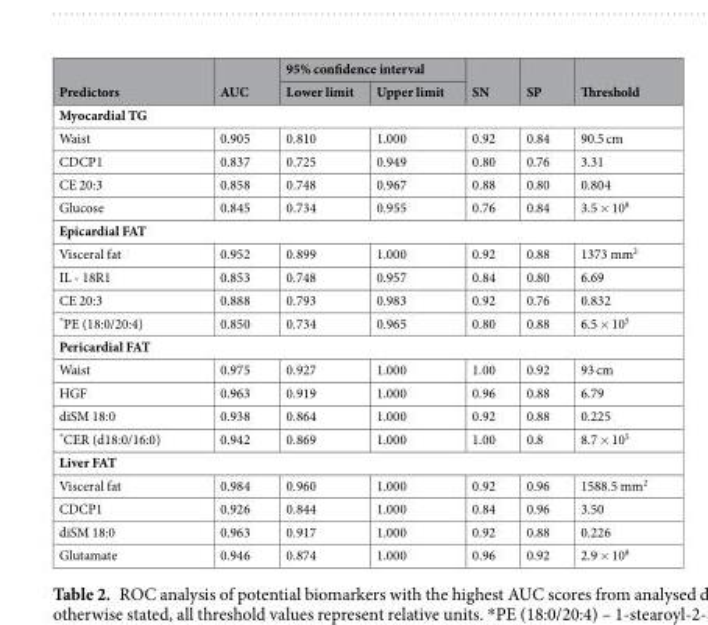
<table><thead><tr><td rowspan="2">Predictors</td><td rowspan="2">AUC</td><td colspan="2">95% confidence interval</td><td rowspan="2">SN</td><td rowspan="2">SP</td><td rowspan="2">Threshold</td></tr><tr><td>Lower limit</td><td>Upper limit</td></tr></thead><tbody><tr><td colspan="7">Myocardial TG</td></tr><tr><td>Waist</td><td>0.905</td><td>0.810</td><td>1.000</td><td>0.92</td><td>0.84</td><td>90.5 cm</td></tr><tr><td>CDCP1</td><td>0.837</td><td>0.725</td><td>0.949</td><td>0.80</td><td>0.76</td><td>3.31</td></tr><tr><td>CE 20:3</td><td>0.858</td><td>0.748</td><td>0.967</td><td>0.88</td><td>0.80</td><td>0.804</td></tr><tr><td>Glucose</td><td>0.845</td><td>0.734</td><td>0.955</td><td>0.76</td><td>0.84</td><td>3.5 × 10<sup>8</sup></td></tr><tr><td colspan="7">Epicardial FAT</td></tr><tr><td>Visceral fat</td><td>0.952</td><td>0.899</td><td>1.000</td><td>0.92</td><td>0.88</td><td>1373 mm<sup>2</sup></td></tr><tr><td>IL - 18R1</td><td>0.853</td><td>0.748</td><td>0.957</td><td>0.84</td><td>0.80</td><td>6.69</td></tr><tr><td>CE 20:3</td><td>0.888</td><td>0.793</td><td>0.983</td><td>0.92</td><td>0.76</td><td>0.832</td></tr><tr><td>*PE (18:0/20:4)</td><td>0.850</td><td>0.734</td><td>0.965</td><td>0.80</td><td>0.88</td><td>6.5 × 10<sup>5</sup></td></tr><tr><td colspan="7">Pericardial FAT</td></tr><tr><td>Waist</td><td>0.975</td><td>0.927</td><td>1.000</td><td>1.00</td><td>0.92</td><td>93 cm</td></tr><tr><td>HGF</td><td>0.963</td><td>0.919</td><td>1.000</td><td>0.96</td><td>0.88</td><td>6.79</td></tr><tr><td>diSM 18:0</td><td>0.938</td><td>0.864</td><td>1.000</td><td>0.92</td><td>0.88</td><td>0.225</td></tr><tr><td>*CER (d18:0/16:0)</td><td>0.942</td><td>0.869</td><td>1.000</td><td>1.00</td><td>0.8</td><td>8.7 × 10<sup>5</sup></td></tr><tr><td colspan="7">Liver FAT</td></tr><tr><td>Visceral fat</td><td>0.984</td><td>0.960</td><td>1.000</td><td>0.92</td><td>0.96</td><td>1588.5 mm<sup>2</sup></td></tr><tr><td>CDCP1</td><td>0.926</td><td>0.844</td><td>1.000</td><td>0.84</td><td>0.96</td><td>3.50</td></tr><tr><td>diSM 18:0</td><td>0.963</td><td>0.917</td><td>1.000</td><td>0.92</td><td>0.88</td><td>0.226</td></tr><tr><td>Glutamate</td><td>0.946</td><td>0.874</td><td>1.000</td><td>0.96</td><td>0.92</td><td>2.9 × 10<sup>8</sup></td></tr></tbody></table>